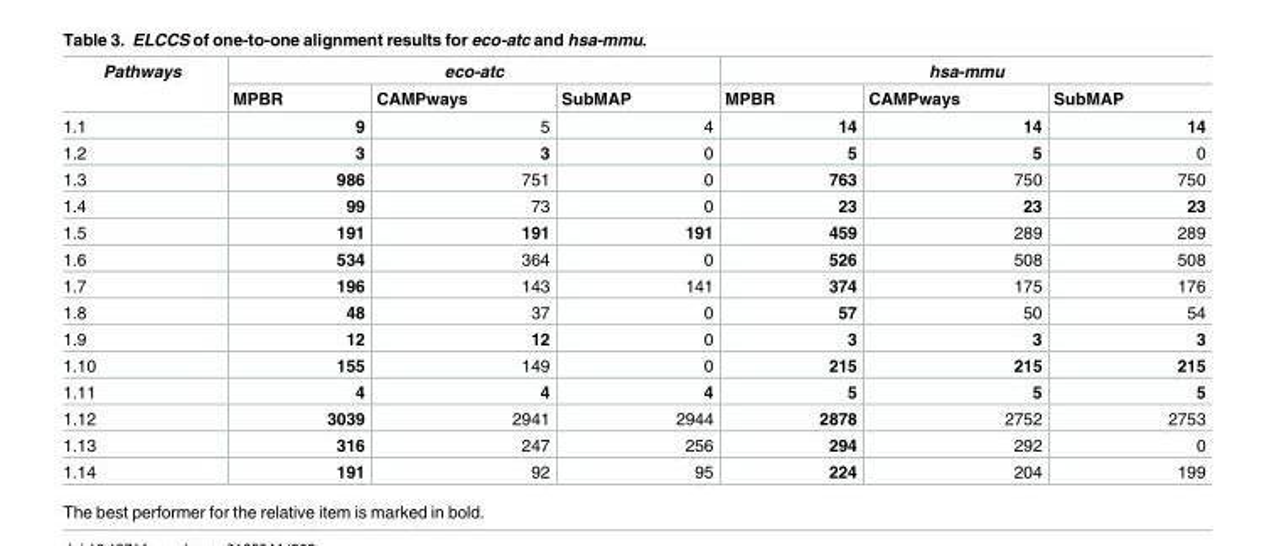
<table><thead><tr><td rowspan="2">Pathways</td><td colspan="3">eco-atc</td><td colspan="3">hsa-mmu</td></tr><tr><td>MPBR</td><td>CAMPways</td><td>SubMAP</td><td>MPBR</td><td>CAMPways</td><td>SubMAP</td></tr></thead><tbody><tr><td>1.1</td><td>9</td><td>5</td><td>4</td><td>14</td><td>14</td><td>14</td></tr><tr><td>1.2</td><td>3</td><td>3</td><td>0</td><td>5</td><td>5</td><td>0</td></tr><tr><td>1.3</td><td>986</td><td>751</td><td>0</td><td>763</td><td>750</td><td>750</td></tr><tr><td>1.4</td><td>99</td><td>73</td><td>0</td><td>23</td><td>23</td><td>23</td></tr><tr><td>1.5</td><td>191</td><td>191</td><td>191</td><td>459</td><td>289</td><td>289</td></tr><tr><td>1.6</td><td>534</td><td>364</td><td>0</td><td>526</td><td>508</td><td>508</td></tr><tr><td>1.7</td><td>196</td><td>143</td><td>141</td><td>374</td><td>175</td><td>176</td></tr><tr><td>1.8</td><td>48</td><td>37</td><td>0</td><td>57</td><td>50</td><td>54</td></tr><tr><td>1.9</td><td>12</td><td>12</td><td>0</td><td>3</td><td>3</td><td>3</td></tr><tr><td>1.10</td><td>155</td><td>149</td><td>0</td><td>215</td><td>215</td><td>215</td></tr><tr><td>1.11</td><td>4</td><td>4</td><td>4</td><td>5</td><td>5</td><td>5</td></tr><tr><td>1.12</td><td>3039</td><td>2941</td><td>2944</td><td>2878</td><td>2752</td><td>2753</td></tr><tr><td>1.13</td><td>316</td><td>247</td><td>256</td><td>294</td><td>292</td><td>0</td></tr><tr><td>1.14</td><td>191</td><td>92</td><td>95</td><td>224</td><td>204</td><td>199</td></tr></tbody></table>